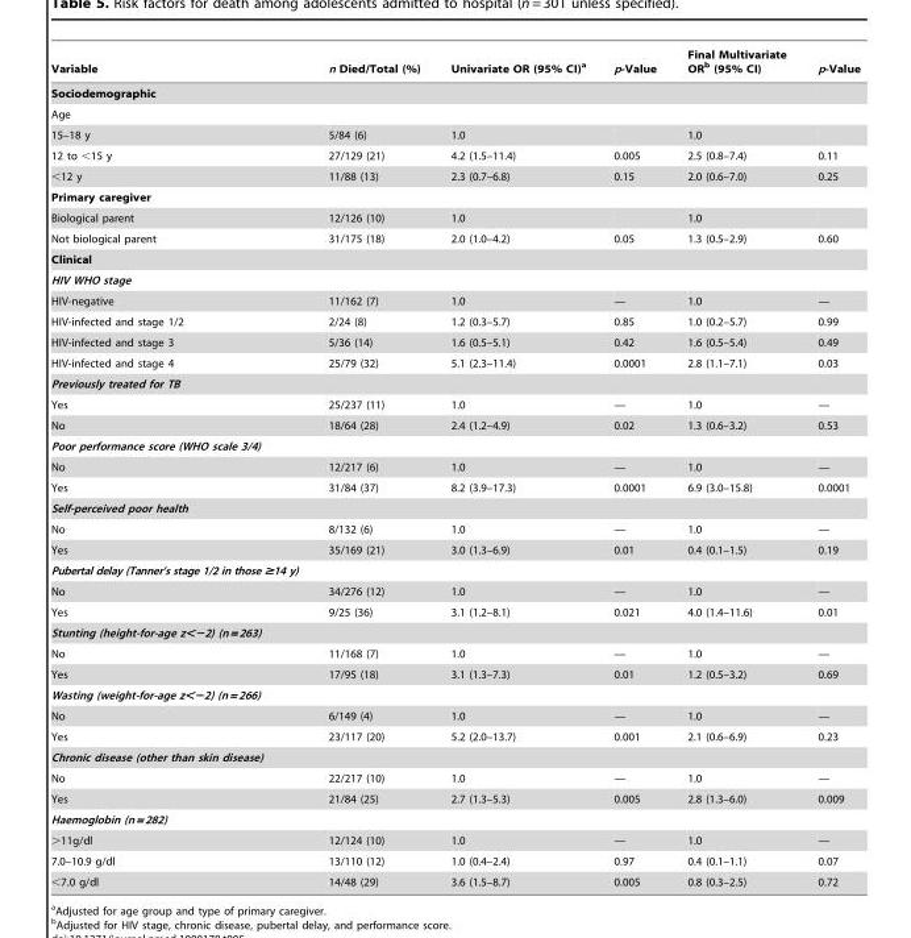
<table><thead><tr><td>Variable</td><td>n Died/Total (%)</td><td>Univariate OR (95% CI)<sup>a</sup></td><td>p-Value</td><td>Final Multivariate OR<sup>b</sup> (95% CI)</td><td>p-Value</td></tr></thead><tbody><tr><td colspan="6">Sociodemographic</td></tr><tr><td colspan="6">Age</td></tr><tr><td>15–18 y</td><td>5/84 (6)</td><td>1.0</td><td></td><td>1.0</td><td></td></tr><tr><td>12 to &lt;15 y</td><td>27/129 (21)</td><td>4.2 (1.5–11.4)</td><td>0.005</td><td>2.5 (0.8–7.4)</td><td>0.11</td></tr><tr><td>&lt;12 y</td><td>11/88 (13)</td><td>2.3 (0.7–6.8)</td><td>0.15</td><td>2.0 (0.6–7.0)</td><td>0.25</td></tr><tr><td colspan="6">Primary caregiver</td></tr><tr><td>Biological parent</td><td>12/126 (10)</td><td>1.0</td><td></td><td>1.0</td><td></td></tr><tr><td>Not biological parent</td><td>31/175 (18)</td><td>2.0 (1.0–4.2)</td><td>0.05</td><td>1.3 (0.5–2.9)</td><td>0.60</td></tr><tr><td colspan="6">Clinical</td></tr><tr><td colspan="6">HIV WHO stage</td></tr><tr><td>HIV-negative</td><td>11/162 (7)</td><td>1.0</td><td>—</td><td>1.0</td><td>—</td></tr><tr><td>HIV-infected and stage 1/2</td><td>2/24 (8)</td><td>1.2 (0.3–5.7)</td><td>0.85</td><td>1.0 (0.2–5.7)</td><td>0.99</td></tr><tr><td>HIV-infected and stage 3</td><td>5/36 (14)</td><td>1.6 (0.5–5.1)</td><td>0.42</td><td>1.6 (0.5–5.4)</td><td>0.49</td></tr><tr><td>HIV-infected and stage 4</td><td>25/79 (32)</td><td>5.1 (2.3–11.4)</td><td>0.0001</td><td>2.8 (1.1–7.1)</td><td>0.03</td></tr><tr><td colspan="6">Previously treated for TB</td></tr><tr><td>Yes</td><td>25/237 (11)</td><td>1.0</td><td>—</td><td>1.0</td><td>—</td></tr><tr><td>No</td><td>18/64 (28)</td><td>2.4 (1.2–4.9)</td><td>0.02</td><td>1.3 (0.6–3.2)</td><td>0.53</td></tr><tr><td colspan="6">Poor performance score (WHO scale 3/4)</td></tr><tr><td>No</td><td>12/217 (6)</td><td>1.0</td><td>—</td><td>1.0</td><td>—</td></tr><tr><td>Yes</td><td>31/84 (37)</td><td>8.2 (3.9–17.3)</td><td>0.0001</td><td>6.9 (3.0–15.8)</td><td>0.0001</td></tr><tr><td colspan="6">Self-perceived poor health</td></tr><tr><td>No</td><td>8/132 (6)</td><td>1.0</td><td>—</td><td>1.0</td><td>—</td></tr><tr><td>Yes</td><td>35/169 (21)</td><td>3.0 (1.3–6.9)</td><td>0.01</td><td>0.4 (0.1–1.5)</td><td>0.19</td></tr><tr><td colspan="6">Pubertal delay (Tanner’s stage 1/2 in those ≥14 y)</td></tr><tr><td>No</td><td>34/276 (12)</td><td>1.0</td><td>—</td><td>1.0</td><td>—</td></tr><tr><td>Yes</td><td>9/25 (36)</td><td>3.1 (1.2–8.1)</td><td>0.021</td><td>4.0 (1.4–11.6)</td><td>0.01</td></tr><tr><td colspan="6">Stunting (height-for-age z,22) (n == 263)</td></tr><tr><td>No</td><td>11/168 (7)</td><td>1.0</td><td>—</td><td>1.0</td><td>—</td></tr><tr><td>Yes</td><td>17/95 (18)</td><td>3.1 (1.3–7.3)</td><td>0.01</td><td>1.2 (0.5–3.2)</td><td>0.69</td></tr><tr><td colspan="6">Wasting (weight-for-age z,22) (n == 266)</td></tr><tr><td>No</td><td>6/149 (4)</td><td>1.0</td><td>—</td><td>1.0</td><td>—</td></tr><tr><td>Yes</td><td>23/117 (20)</td><td>5.2 (2.0–13.7)</td><td>0.001</td><td>2.1 (0.6–6.9)</td><td>0.23</td></tr><tr><td colspan="6">Chronic disease (other than skin disease)</td></tr><tr><td>No</td><td>22/217 (10)</td><td>1.0</td><td>—</td><td>1.0</td><td>—</td></tr><tr><td>Yes</td><td>21/84 (25)</td><td>2.7 (1.3–5.3)</td><td>0.005</td><td>2.8 (1.3–6.0)</td><td>0.009</td></tr><tr><td colspan="6">Haemoglobin (n == 282)</td></tr><tr><td>&gt;11g/dl</td><td>12/124 (10)</td><td>1.0</td><td>—</td><td>1.0</td><td>—</td></tr><tr><td>7.0–10.9 g/dl</td><td>13/110 (12)</td><td>1.0 (0.4–2.4)</td><td>0.97</td><td>0.4 (0.1–1.1)</td><td>0.07</td></tr><tr><td>&lt;7.0 g/dl</td><td>14/48 (29)</td><td>3.6 (1.5–8.7)</td><td>0.005</td><td>0.8 (0.3–2.5)</td><td>0.72</td></tr></tbody></table>